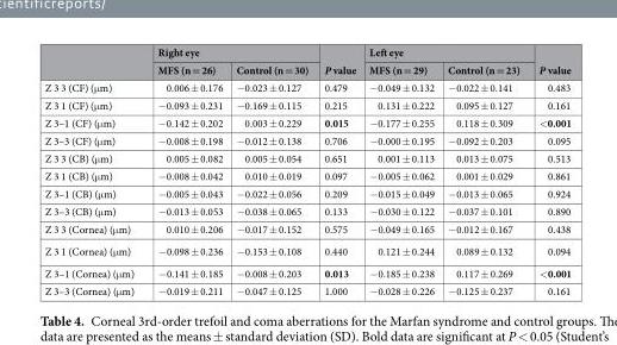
<table><thead><tr><td rowspan="2"></td><td colspan="2">Right eye</td><td rowspan="2">P value</td><td colspan="2">Left eye</td><td rowspan="2">P value</td></tr><tr><td>MFS (n = 26)</td><td>Control (n = 30)</td><td>MFS (n = 29)</td><td>Control (n = 23)</td></tr></thead><tbody><tr><td>Z 3 3 (CF) (μm)</td><td>0.006 ± 0.176</td><td>−0.023 ± 0.127</td><td>0.479</td><td>−0.049 ± 0.132</td><td>−0.022 ± 0.141</td><td>0.483</td></tr><tr><td>Z 3 1 (CF) (μm)</td><td>−0.093 ± 0.231</td><td>−0.169 ± 0.115</td><td>0.215</td><td>0.131 ± 0.222</td><td>0.095 ± 0.127</td><td>0.161</td></tr><tr><td>Z 3–1 (CF) (μm)</td><td>−0.142 ± 0.202</td><td>0.003 ± 0.229</td><td>0.015</td><td>−0.177 ± 0.255</td><td>0.118 ± 0.309</td><td>&lt;0.001</td></tr><tr><td>Z 3–3 (CF) (μm)</td><td>−0.008 ± 0.198</td><td>−0.012 ± 0.138</td><td>0.706</td><td>−0.000 ± 0.195</td><td>−0.092 ± 0.203</td><td>0.095</td></tr><tr><td>Z 3 3 (CB) (μm)</td><td>0.005 ± 0.082</td><td>0.005 ± 0.054</td><td>0.651</td><td>0.001 ± 0.113</td><td>0.013 ± 0.075</td><td>0.513</td></tr><tr><td>Z 3 1 (CB) (μm)</td><td>−0.008 ± 0.042</td><td>0.010 ± 0.019</td><td>0.097</td><td>−0.005 ± 0.062</td><td>0.001 ± 0.029</td><td>0.861</td></tr><tr><td>Z 3–1 (CB) (μm)</td><td>−0.005 ± 0.043</td><td>−0.022 ± 0.056</td><td>0.209</td><td>−0.015 ± 0.049</td><td>−0.013 ± 0.065</td><td>0.924</td></tr><tr><td>Z 3–3 (CB) (μm)</td><td>−0.013 ± 0.053</td><td>−0.038 ± 0.065</td><td>0.133</td><td>−0.030 ± 0.122</td><td>−0.037 ± 0.101</td><td>0.890</td></tr><tr><td>Z 3 3 (Cornea) (μm)</td><td>0.010 ± 0.206</td><td>−0.017 ± 0.152</td><td>0.575</td><td>−0.049 ± 0.165</td><td>−0.012 ± 0.167</td><td>0.438</td></tr><tr><td>Z 3 1 (Cornea) (μm)</td><td>−0.098 ± 0.236</td><td>−0.153 ± 0.108</td><td>0.440</td><td>0.121 ± 0.244</td><td>0.089 ± 0.132</td><td>0.094</td></tr><tr><td>Z 3–1 (Cornea) (μm)</td><td>−0.141 ± 0.185</td><td>−0.008 ± 0.203</td><td>0.013</td><td>−0.185 ± 0.238</td><td>0.117 ± 0.269</td><td>&lt;0.001</td></tr><tr><td>Z 3–3 (Cornea) (μm)</td><td>−0.019 ± 0.211</td><td>−0.047 ± 0.125</td><td>1.000</td><td>−0.028 ± 0.226</td><td>−0.125 ± 0.237</td><td>0.161</td></tr></tbody></table>